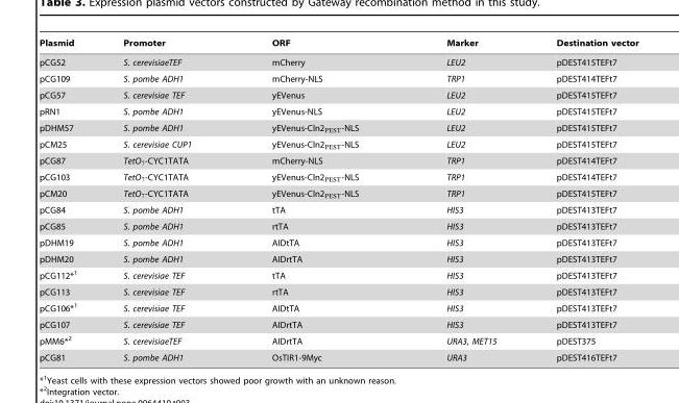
<table><thead><tr><td>Plasmid</td><td>Promoter</td><td>ORF</td><td>Marker</td><td>Destination vector</td></tr></thead><tbody><tr><td>pCG52</td><td>S. cerevisiaeTEF</td><td>mCherry</td><td>LEU2</td><td>pDEST415TEFt7</td></tr><tr><td>pCG109</td><td>S. pombe ADH1</td><td>mCherry-NLS</td><td>TRP1</td><td>pDEST414TEFt7</td></tr><tr><td>pCG57</td><td>S. cerevisiae TEF</td><td>yEVenus</td><td>LEU2</td><td>pDEST415TEFt7</td></tr><tr><td>pRN1</td><td>S. pombe ADH1</td><td>yEVenus-NLS</td><td>LEU2</td><td>pDEST415TEFt7</td></tr><tr><td>pDHM57</td><td>S. pombe ADH1</td><td>yEVenus-Cln2PEST-NLS</td><td>LEU2</td><td>pDEST415TEFt7</td></tr><tr><td>pCM25</td><td>S. cerevisiae CUP1</td><td>yEVenus-Cln2PEST-NLS</td><td>LEU2</td><td>pDEST415TEFt7</td></tr><tr><td>pCG87</td><td>TetO7-CYC1TATA</td><td>mCherry-NLS</td><td>TRP1</td><td>pDEST414TEFt7</td></tr><tr><td>pCG103</td><td>TetO7-CYC1TATA</td><td>yEVenus-Cln2PEST-NLS</td><td>TRP1</td><td>pDEST414TEFt7</td></tr><tr><td>pCM20</td><td>TetO7-CYC1TATA</td><td>yEVenus-Cln2PEST-NLS</td><td>TRP1</td><td>pDEST415TEFt7</td></tr><tr><td>pCG84</td><td>S. pombe ADH1</td><td>tTA</td><td>HIS3</td><td>pDEST413TEFt7</td></tr><tr><td>pCG85</td><td>S. pombe ADH1</td><td>rtTA</td><td>HIS3</td><td>pDEST413TEFt7</td></tr><tr><td>pDHM19</td><td>S. pombe ADH1</td><td>AIDtTA</td><td>HIS3</td><td>pDEST413TEFt7</td></tr><tr><td>pDHM20</td><td>S. pombe ADH1</td><td>AIDrtTA</td><td>HIS3</td><td>pDEST413TEFt7</td></tr><tr><td>pCG112*<sup>1</sup></td><td>S. cerevisiae TEF</td><td>tTA</td><td>HIS3</td><td>pDEST413TEFt7</td></tr><tr><td>pCG113</td><td>S. cerevisiae TEF</td><td>rtTA</td><td>HIS3</td><td>pDEST413TEFt7</td></tr><tr><td>pCG106*<sup>1</sup></td><td>S. cerevisiae TEF</td><td>AIDtTA</td><td>HIS3</td><td>pDEST413TEFt7</td></tr><tr><td>pCG107</td><td>S. cerevisiae TEF</td><td>AIDrtTA</td><td>HIS3</td><td>pDEST413TEFt7</td></tr><tr><td>pMM6*<sup>2</sup></td><td>S. cerevisiaeTEF</td><td>AIDrtTA</td><td>URA3, MET15</td><td>pDEST375</td></tr><tr><td>pCG81</td><td>S. pombe ADH1</td><td>OsTIR1-9Myc</td><td>URA3</td><td>pDEST416TEFt7</td></tr></tbody></table>